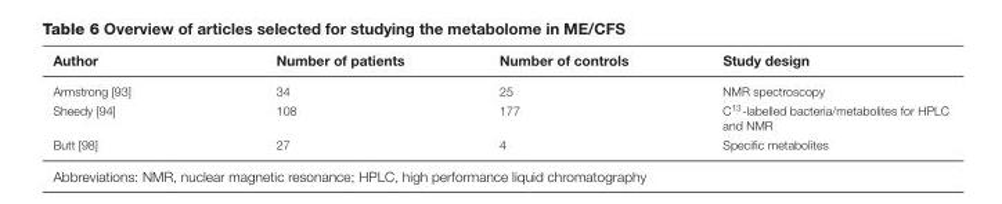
<table><thead><tr><td>Author</td><td>Number of patients</td><td>Number of controls</td><td>Study design</td></tr></thead><tbody><tr><td>Armstrong [93]</td><td>34</td><td>25</td><td>NMR spectroscopy</td></tr><tr><td>Sheedy [94]</td><td>108</td><td>177</td><td>C<sup>13</sup>-labelled bacteria/metabolites for HPLC and NMR</td></tr><tr><td>Butt [98]</td><td>27</td><td>4</td><td>Specific metabolites</td></tr></tbody></table>